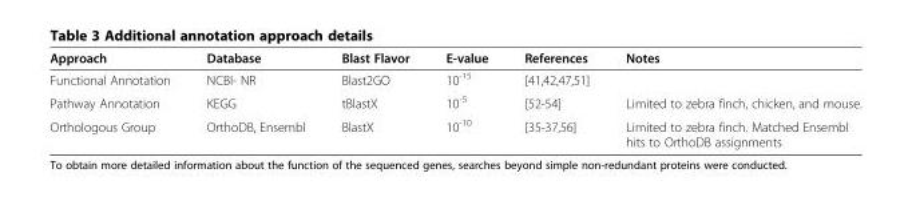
<table><thead><tr><td>Approach</td><td>Database</td><td>Blast Flavor</td><td>E-value</td><td>References</td><td>Notes</td></tr></thead><tbody><tr><td>Functional Annotation</td><td>NCBI- NR</td><td>Blast2GO</td><td>10<sup>-15</sup></td><td>[41,42,47,51]</td><td></td></tr><tr><td>Pathway Annotation</td><td>KEGG</td><td>tBlastX</td><td>10<sup>-5</sup></td><td>[52-54]</td><td>Limited to zebra finch, chicken, and mouse.</td></tr><tr><td>Orthologous Group</td><td>OrthoDB, Ensembl</td><td>BlastX</td><td>10<sup>-10</sup></td><td>[35-37,56]</td><td>Limited to zebra finch. Matched Ensembl hits to OrthoDB assignments</td></tr></tbody></table>